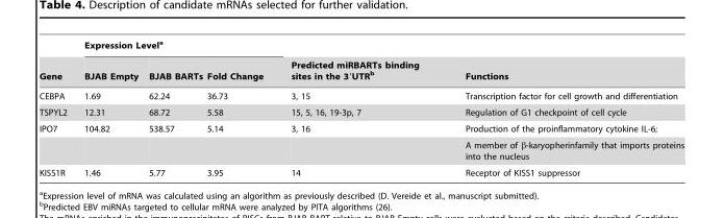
<table><thead><tr><td rowspan="2">Gene</td><td colspan="3">Expression Level<sup>a</sup></td><td rowspan="2">Predicted miRBARTs binding sites in the 3′UTR<sup>b</sup></td><td rowspan="2">Functions</td></tr><tr><td>BJAB Empty</td><td>BJAB BARTs</td><td>Fold Change</td></tr></thead><tbody><tr><td>CEBPA</td><td>1.69</td><td>62.24</td><td>36.73</td><td>3, 15</td><td>Transcription factor for cell growth and differentiation</td></tr><tr><td>TSPYL2</td><td>12.31</td><td>68.72</td><td>5.58</td><td>15, 5, 16, 19-3p, 7</td><td>Regulation of G1 checkpoint of cell cycle</td></tr><tr><td rowspan="2">IPO7</td><td>104.82</td><td>538.57</td><td>5.14</td><td>3, 16</td><td>Production of the proinflammatory cytokine IL-6;</td></tr><tr><td></td><td></td><td></td><td></td><td>A member of β-karyopherinfamily that imports proteins into the nucleus</td></tr><tr><td>KISS1R</td><td>1.46</td><td>5.77</td><td>3.95</td><td>14</td><td>Receptor of KISS1 suppressor</td></tr></tbody></table>